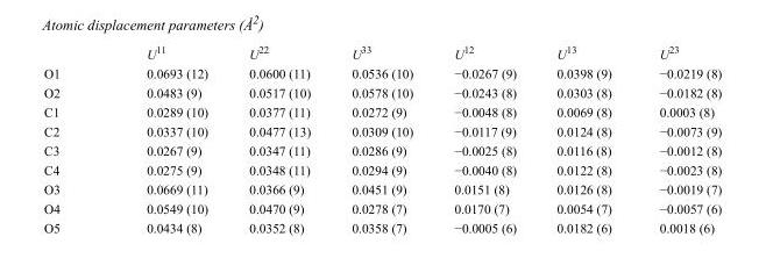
<table><thead><tr><td></td><td>U<sup>11</sup></td><td>U<sup>22</sup></td><td>U<sup>33</sup></td><td>U<sup>12</sup></td><td>U<sup>13</sup></td><td>U<sup>23</sup></td></tr></thead><tbody><tr><td>O1</td><td>0.0693 (12)</td><td>0.0600 (11)</td><td>0.0536 (10)</td><td>−0.0267 (9)</td><td>0.0398 (9)</td><td>−0.0219 (8)</td></tr><tr><td>O2</td><td>0.0483 (9)</td><td>0.0517 (10)</td><td>0.0578 (10)</td><td>−0.0243 (8)</td><td>0.0303 (8)</td><td>−0.0182 (8)</td></tr><tr><td>C1</td><td>0.0289 (10)</td><td>0.0377 (11)</td><td>0.0272 (9)</td><td>−0.0048 (8)</td><td>0.0069 (8)</td><td>0.0003 (8)</td></tr><tr><td>C2</td><td>0.0337 (10)</td><td>0.0477 (13)</td><td>0.0309 (10)</td><td>−0.0117 (9)</td><td>0.0124 (8)</td><td>−0.0073 (9)</td></tr><tr><td>C3</td><td>0.0267 (9)</td><td>0.0347 (11)</td><td>0.0286 (9)</td><td>−0.0025 (8)</td><td>0.0116 (8)</td><td>−0.0012 (8)</td></tr><tr><td>C4</td><td>0.0275 (9)</td><td>0.0348 (11)</td><td>0.0294 (9)</td><td>−0.0040 (8)</td><td>0.0122 (8)</td><td>−0.0023 (8)</td></tr><tr><td>O3</td><td>0.0669 (11)</td><td>0.0366 (9)</td><td>0.0451 (9)</td><td>0.0151 (8)</td><td>0.0126 (8)</td><td>−0.0019 (7)</td></tr><tr><td>O4</td><td>0.0549 (10)</td><td>0.0470 (9)</td><td>0.0278 (7)</td><td>0.0170 (7)</td><td>0.0054 (7)</td><td>−0.0057 (6)</td></tr><tr><td>O5</td><td>0.0434 (8)</td><td>0.0352 (8)</td><td>0.0358 (7)</td><td>−0.0005 (6)</td><td>0.0182 (6)</td><td>0.0018 (6)</td></tr></tbody></table>